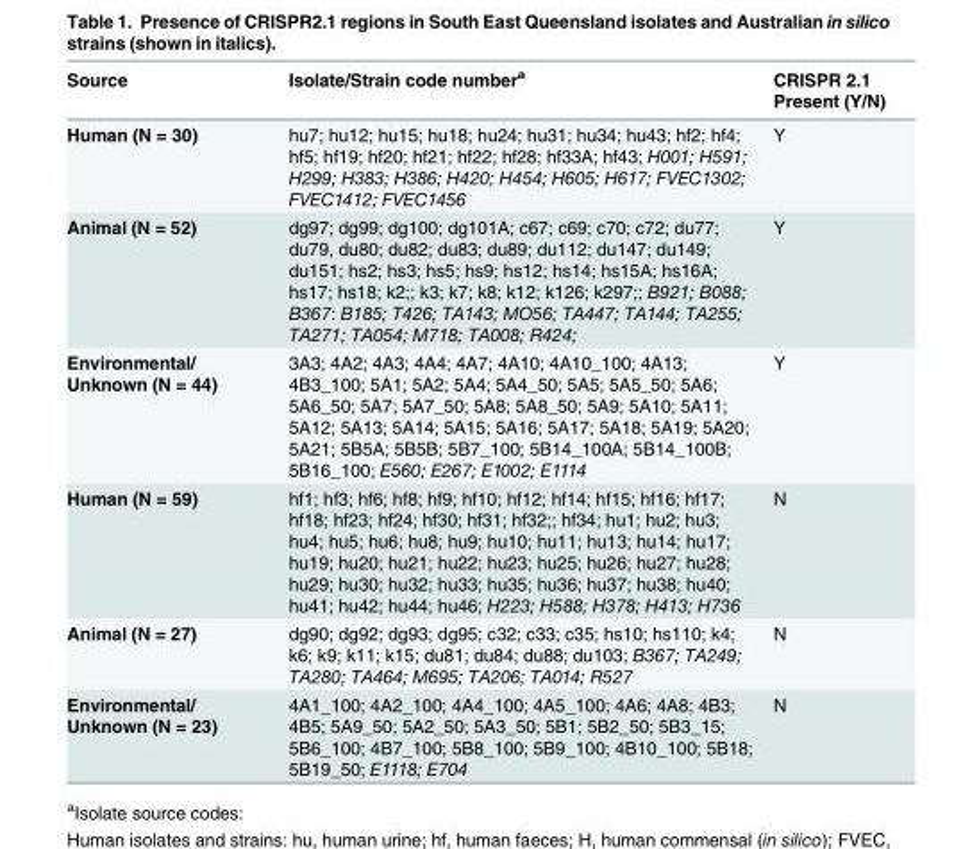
<table><thead><tr><td>Source</td><td>Isolate/Strain code number<sup>a</sup></td><td>CRISPR 2.1 Present (Y/N)</td></tr></thead><tbody><tr><td>Human (N = 30)</td><td>hu7; hu12; hu15; hu18; hu24; hu31; hu34; hu43; hf2; hf4; hf5; hf19; hf20; hf21; hf22; hf28; hf33A; hf43; H001; H591; H299; H383; H386; H420; H454; H605; H617; FVEC1302; FVEC1412; FVEC1456</td><td>Y</td></tr><tr><td>Animal (N = 52)</td><td>dg97; dg99; dg100; dg101A; c67; c69; c70; c72; du77; du79, du80; du82; du83; du89; du112; du147; du149; du151; hs2; hs3; hs5; hs9; hs12; hs14; hs15A; hs16A; hs17; hs18; k2;; k3; k7; k8; k12; k126; k297;; B921; B088; B367: B185; T426; TA143; MO56; TA447; TA144; TA255; TA271; TA054; M718; TA008; R424;</td><td>Y</td></tr><tr><td>Environmental/ Unknown (N = 44)</td><td>3A3; 4A2; 4A3; 4A4; 4A7; 4A10; 4A10_100; 4A13; 4B3_100; 5A1; 5A2; 5A4; 5A4_50; 5A5; 5A5_50; 5A6; 5A6_50; 5A7; 5A7_50; 5A8; 5A8_50; 5A9; 5A10; 5A11; 5A12; 5A13; 5A14; 5A15; 5A16; 5A17; 5A18; 5A19; 5A20; 5A21; 5B5A; 5B5B; 5B7_100; 5B14_100A; 5B14_100B; 5B16_100; E560; E267; E1002; E1114</td><td>Y</td></tr><tr><td>Human (N = 59)</td><td>hf1; hf3; hf6; hf8; hf9; hf10; hf12; hf14; hf15; hf16; hf17; hf18; hf23; hf24; hf30; hf31; hf32;; hf34; hu1; hu2; hu3; hu4; hu5; hu6; hu8; hu9; hu10; hu11; hu13; hu14; hu17; hu19; hu20; hu21; hu22; hu23; hu25; hu26; hu27; hu28; hu29; hu30; hu32; hu33; hu35; hu36; hu37; hu38; hu40; hu41; hu42; hu44; hu46; H223; H588; H378; H413; H736</td><td>N</td></tr><tr><td>Animal (N = 27)</td><td>dg90; dg92; dg93; dg95; c32; c33; c35; hs10; hs110; k4; k6; k9; k11; k15; du81; du84; du88; du103; B367; TA249; TA280; TA464; M695; TA206; TA014; R527</td><td>N</td></tr><tr><td>Environmental/ Unknown (N = 23)</td><td>4A1_100; 4A2_100; 4A4_100; 4A5_100; 4A6; 4A8; 4B3; 4B5; 5A9_50; 5A2_50; 5A3_50; 5B1; 5B2_50; 5B3_15; 5B6_100; 4B7_100; 5B8_100; 5B9_100; 4B10_100; 5B18; 5B19_50; E1118; E704</td><td>N</td></tr></tbody></table>